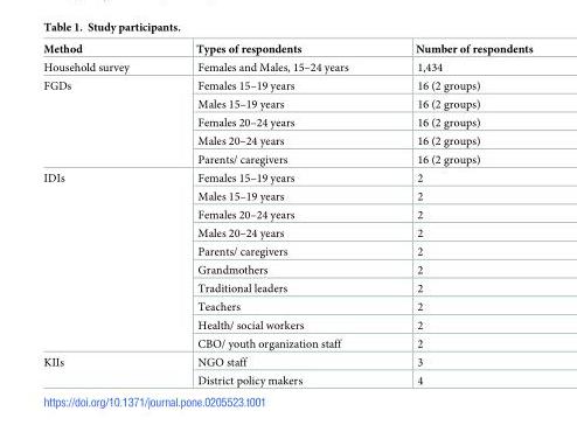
<table><thead><tr><td>Method</td><td>Types of respondents</td><td>Number of respondents</td></tr></thead><tbody><tr><td>Household survey</td><td>Females and Males, 15–24 years</td><td>1,434</td></tr><tr><td rowspan="5">FGDs</td><td>Females 15–19 years</td><td>16 (2 groups)</td></tr><tr><td>Males 15–19 years</td><td>16 (2 groups)</td></tr><tr><td>Females 20–24 years</td><td>16 (2 groups)</td></tr><tr><td>Males 20–24 years</td><td>16 (2 groups)</td></tr><tr><td>Parents/ caregivers</td><td>16 (2 groups)</td></tr><tr><td rowspan="10">IDIs</td><td>Females 15–19 years</td><td>2</td></tr><tr><td>Males 15–19 years</td><td>2</td></tr><tr><td>Females 20–24 years</td><td>2</td></tr><tr><td>Males 20–24 years</td><td>2</td></tr><tr><td>Parents/ caregivers</td><td>2</td></tr><tr><td>Grandmothers</td><td>2</td></tr><tr><td>Traditional leaders</td><td>2</td></tr><tr><td>Teachers</td><td>2</td></tr><tr><td>Health/ social workers</td><td>2</td></tr><tr><td>CBO/ youth organization staff</td><td>2</td></tr><tr><td rowspan="2">KIIs</td><td>NGO staff</td><td>3</td></tr><tr><td>District policy makers</td><td>4</td></tr></tbody></table>